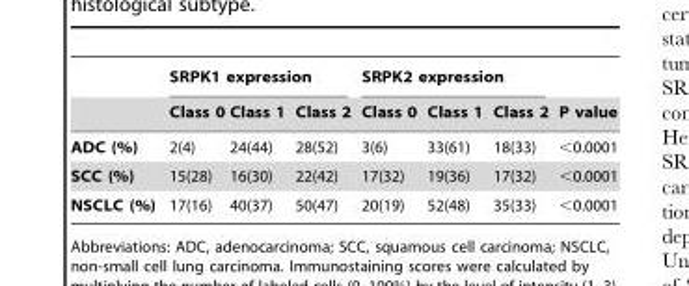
<table><thead><tr><td rowspan="2"></td><td colspan="3">SRPK1 expression</td><td colspan="3">SRPK2 expression</td><td rowspan="2">P value</td></tr><tr><td>Class 0</td><td>Class 1</td><td>Class 2</td><td>Class 0</td><td>Class 1</td><td>Class 2</td></tr></thead><tbody><tr><td>ADC (%)</td><td>2(4)</td><td>24(44)</td><td>28(52)</td><td>3(6)</td><td>33(61)</td><td>18(33)</td><td>&lt;0.0001</td></tr><tr><td>SCC (%)</td><td>15(28)</td><td>16(30)</td><td>22(42)</td><td>17(32)</td><td>19(36)</td><td>17(32)</td><td>&lt;0.0001</td></tr><tr><td>NSCLC (%)</td><td>17(16)</td><td>40(37)</td><td>50(47)</td><td>20(19)</td><td>52(48)</td><td>35(33)</td><td>&lt;0.0001</td></tr></tbody></table>